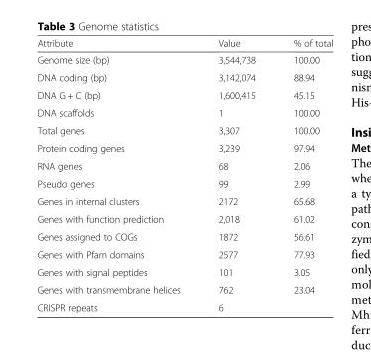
<table><thead><tr><td>Attribute</td><td>Value</td><td>% of total</td></tr></thead><tbody><tr><td>Genome size (bp)</td><td>3,544,738</td><td>100.00</td></tr><tr><td>DNA coding (bp)</td><td>3,142,074</td><td>88.94</td></tr><tr><td>DNA G + C (bp)</td><td>1,600,415</td><td>45.15</td></tr><tr><td>DNA scaffolds</td><td>1</td><td>100.00</td></tr><tr><td>Total genes</td><td>3,307</td><td>100.00</td></tr><tr><td>Protein coding genes</td><td>3,239</td><td>97.94</td></tr><tr><td>RNA genes</td><td>68</td><td>2.06</td></tr><tr><td>Pseudo genes</td><td>99</td><td>2.99</td></tr><tr><td>Genes in internal clusters</td><td>2172</td><td>65.68</td></tr><tr><td>Genes with function prediction</td><td>2,018</td><td>61.02</td></tr><tr><td>Genes assigned to COGs</td><td>1872</td><td>56.61</td></tr><tr><td>Genes with Pfam domains</td><td>2577</td><td>77.93</td></tr><tr><td>Genes with signal peptides</td><td>101</td><td>3.05</td></tr><tr><td>Genes with transmembrane helices</td><td>762</td><td>23.04</td></tr><tr><td>CRISPR repeats</td><td>6</td><td></td></tr></tbody></table>